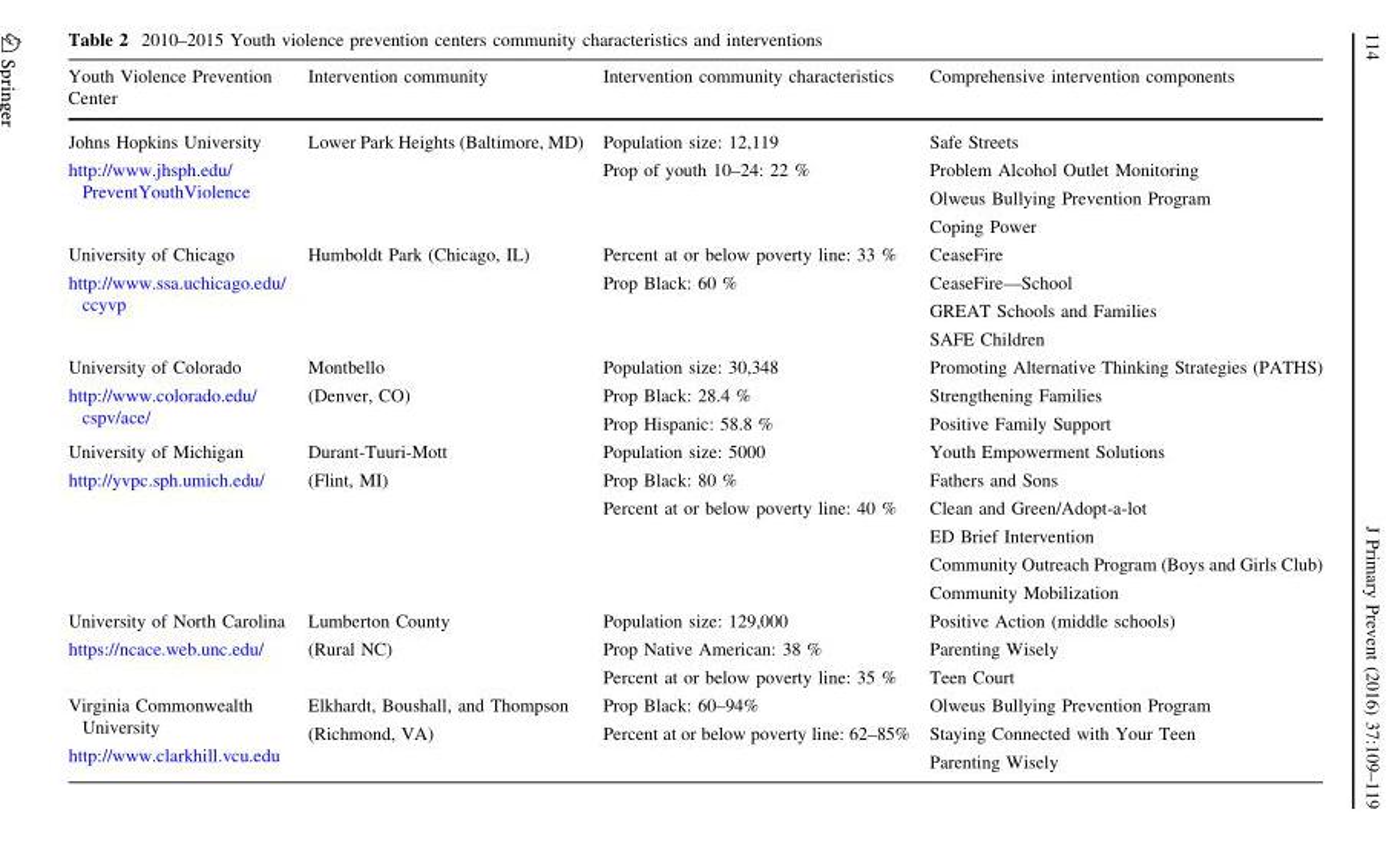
<table><thead><tr><td>Youth Violence Prevention Center</td><td>Intervention community</td><td>Intervention community characteristics</td><td>Comprehensive intervention components</td></tr></thead><tbody><tr><td>Johns Hopkins University http://www.jhsph.edu/ PreventYouthViolence</td><td>Lower Park Heights (Baltimore, MD)</td><td>Population size: 12,119 Prop of youth 10–24: 22 %</td><td>Safe Streets Problem Alcohol Outlet Monitoring Olweus Bullying Prevention Program Coping Power</td></tr><tr><td>University of Chicago http://www.ssa.uchicago.edu/ ccyvp</td><td>Humboldt Park (Chicago, IL)</td><td>Percent at or below poverty line: 33 % Prop Black: 60 %</td><td>CeaseFire CeaseFire—School GREAT Schools and Families SAFE Children</td></tr><tr><td>University of Colorado http://www.colorado.edu/ cspv/ace/</td><td>Montbello (Denver, CO)</td><td>Population size: 30,348 Prop Black: 28.4 % Prop Hispanic: 58.8 %</td><td>Promoting Alternative Thinking Strategies (PATHS) Strengthening Families Positive Family Support</td></tr><tr><td>University of Michigan http://yvpc.sph.umich.edu/</td><td>Durant-Tuuri-Mott (Flint, MI)</td><td>Population size: 5000 Prop Black: 80 % Percent at or below poverty line: 40 %</td><td>Youth Empowerment Solutions Fathers and Sons Clean and Green/Adopt-a-lot ED Brief Intervention Community Outreach Program (Boys and Girls Club) Community Mobilization</td></tr><tr><td>University of North Carolina https://ncace.web.unc.edu/</td><td>Lumberton County (Rural NC)</td><td>Population size: 129,000 Prop Native American: 38 % Percent at or below poverty line: 35 %</td><td>Positive Action (middle schools) Parenting Wisely Teen Court</td></tr><tr><td>Virginia Commonwealth University http://www.clarkhill.vcu.edu</td><td>Elkhardt, Boushall, and Thompson (Richmond, VA)</td><td>Prop Black: 60–94% Percent at or below poverty line: 62–85%</td><td>Olweus Bullying Prevention Program Staying Connected with Your Teen Parenting Wisely</td></tr></tbody></table>